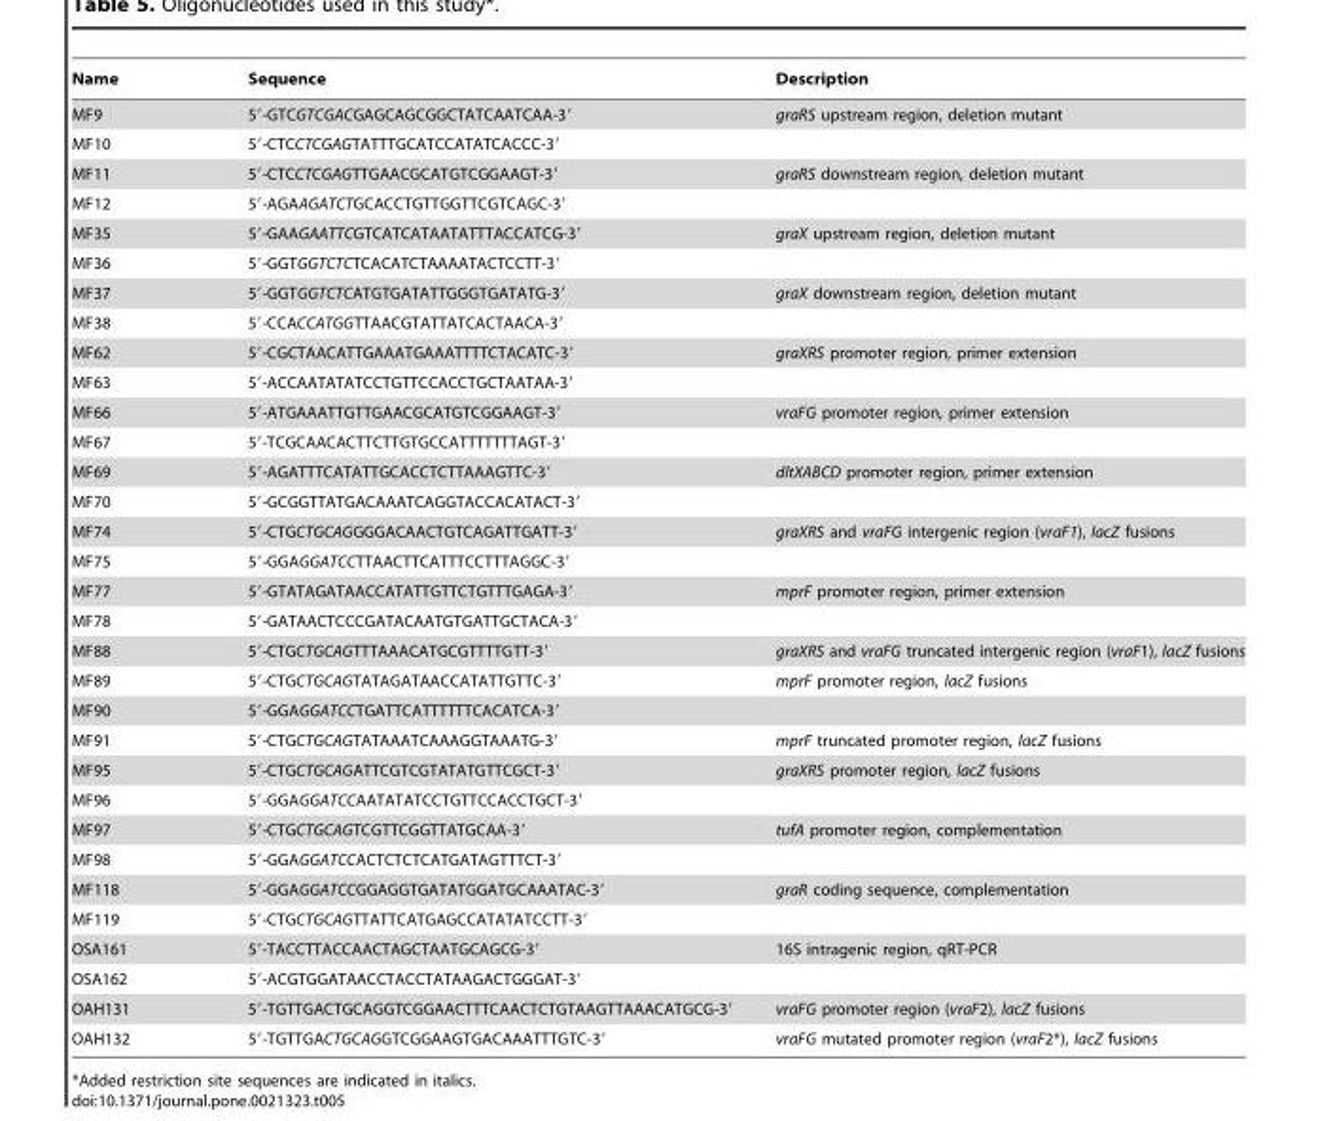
<table><thead><tr><td>Name</td><td>Sequence</td><td>Description</td></tr></thead><tbody><tr><td>MF9</td><td>5′-GTCGTCGACGAGCAGCGGCTATCAATCAA-3′</td><td>graRS upstream region, deletion mutant</td></tr><tr><td>MF10</td><td>5′-CTCCTCGAGTATTTGCATCCATATCACCC-3′</td><td></td></tr><tr><td>MF11</td><td>5′-CTCCTCGAGTTGAACGCATGTCGGAAGT-3′</td><td>graRS downstream region, deletion mutant</td></tr><tr><td>MF12</td><td>5′-AGAAGATCTGCACCTGTTGGTTCGTCAGC-3′</td><td></td></tr><tr><td>MF35</td><td>5′-GAAGAATTCGTCATCATAATATTTACCATCG-3′</td><td>graX upstream region, deletion mutant</td></tr><tr><td>MF36</td><td>5′-GGTGGTCTCTCACATCTAAAATACTCCTT-3′</td><td></td></tr><tr><td>MF37</td><td>5′-GGTGGTCTCATGTGATATTGGGTGATATG-3′</td><td>graX downstream region, deletion mutant</td></tr><tr><td>MF38</td><td>5′-CCACCATGGTTAACGTATTATCACTAACA-3′</td><td></td></tr><tr><td>MF62</td><td>5′-CGCTAACATTGAAATGAAATTTTCTACATC-3′</td><td>graXRS promoter region, primer extension</td></tr><tr><td>MF63</td><td>5′-ACCAATATATCCTGTTCCACCTGCTAATAA-3′</td><td></td></tr><tr><td>MF66</td><td>5′-ATGAAATTGTTGAACGCATGTCGGAAGT-3′</td><td>vraFG promoter region, primer extension</td></tr><tr><td>MF67</td><td>5′-TCGCAACACTTCTTGTGCCATTTTTTTAGT-3′</td><td></td></tr><tr><td>MF69</td><td>5′-AGATTTCATATTGCACCTCTTAAAGTTC-3′</td><td>dltXABCD promoter region, primer extension</td></tr><tr><td>MF70</td><td>5′-GCGGTTATGACAAATCAGGTACCACATACT-3′</td><td></td></tr><tr><td>MF74</td><td>5′-CTGCTGCAGGGGACAACTGTCAGATTGATT-3′</td><td>graXRS and vraFG intergenic region (vraF1), lacZ fusions</td></tr><tr><td>MF75</td><td>5′-GGAGGATCCTTAACTTCATTTCCTTTAGGC-3′</td><td></td></tr><tr><td>MF77</td><td>5′-GTATAGATAACCATATTGTTCTGTTTGAGA-3′</td><td>mprF promoter region, primer extension</td></tr><tr><td>MF78</td><td>5′-GATAACTCCCGATACAATGTGATTGCTACA-3′</td><td></td></tr><tr><td>MF88</td><td>5′-CTGCTGCAGTTTAAACATGCGTTTTGTT-3′</td><td>graXRS and vraFG truncated intergenic region (vraF1), lacZ fusions</td></tr><tr><td>MF89</td><td>5′-CTGCTGCAGTATAGATAACCATATTGTTC-3′</td><td>mprF promoter region, lacZ fusions</td></tr><tr><td>MF90</td><td>5′-GGAGGATCCTGATTCATTTTTTCACATCA-3′</td><td></td></tr><tr><td>MF91</td><td>5′-CTGCTGCAGTATAAATCAAAGGTAAATG-3′</td><td>mprF truncated promoter region, lacZ fusions</td></tr><tr><td>MF95</td><td>5′-CTGCTGCAGATTCGTCGTATATGTTCGCT-3′</td><td>graXRS promoter region, lacZ fusions</td></tr><tr><td>MF96</td><td>5′-GGAGGATCCAATATATCCTGTTCCACCTGCT-3′</td><td></td></tr><tr><td>MF97</td><td>5′-CTGCTGCAGTCGTTCGGTTATGCAA-3′</td><td>tufA promoter region, complementation</td></tr><tr><td>MF98</td><td>5′-GGAGGATCCACTCTCTCATGATAGTTTCT-3′</td><td></td></tr><tr><td>MF118</td><td>5′-GGAGGATCCGGAGGTGATATGGATGCAAATAC-3′</td><td>graR coding sequence, complementation</td></tr><tr><td>MF119</td><td>5′-CTGCTGCAGTTATTCATGAGCCATATATCCTT-3′</td><td></td></tr><tr><td>OSA161</td><td>5′-TACCTTACCAACTAGCTAATGCAGCG-3′</td><td>16S intragenic region, qRT-PCR</td></tr><tr><td>OSA162</td><td>5′-ACGTGGATAACCTACCTATAAGACTGGGAT-3′</td><td></td></tr><tr><td>OAH131</td><td>5′-TGTTGACTGCAGGTCGGAACTTTCAACTCTGTAAGTTAAACATGCG-3′</td><td>vraFG promoter region (vraF2), lacZ fusions</td></tr><tr><td>OAH132</td><td>5′-TGTTGACTGCAGGTCGGAAGTGACAAATTTGTC-3′</td><td>vraFG mutated promoter region (vraF2*), lacZ fusions</td></tr></tbody></table>